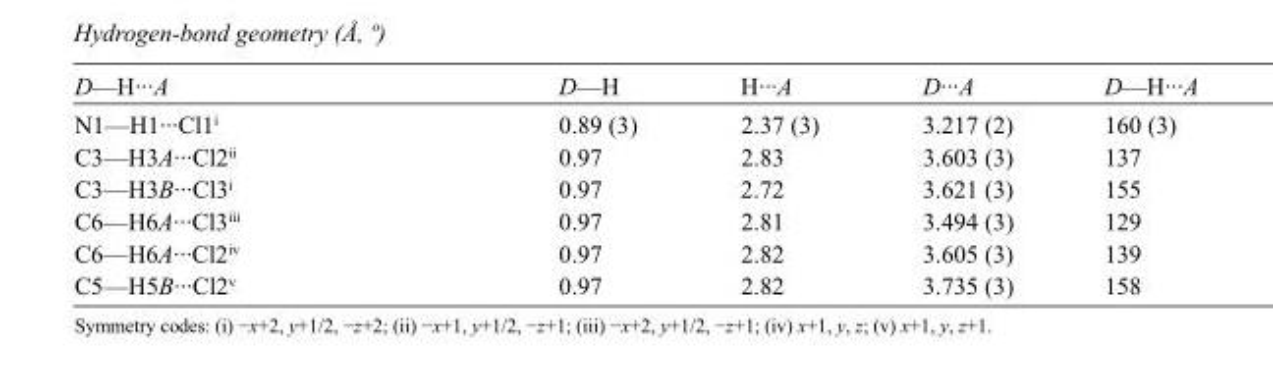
<table><tbody><tr><td>D—H···A</td><td>D—H</td><td>H···A</td><td>D···A</td><td>D—H···A</td></tr><tr><td>N1—H1···Cl1<sup>i</sup></td><td>0.89 (3)</td><td>2.37 (3)</td><td>3.217 (2)</td><td>160 (3)</td></tr><tr><td>C3—H3A···Cl2<sup>ii</sup></td><td>0.97</td><td>2.83</td><td>3.603 (3)</td><td>137</td></tr><tr><td>C3—H3B···Cl3<sup>i</sup></td><td>0.97</td><td>2.72</td><td>3.621 (3)</td><td>155</td></tr><tr><td>C6—H6A···Cl3<sup>iii</sup></td><td>0.97</td><td>2.81</td><td>3.494 (3)</td><td>129</td></tr><tr><td>C6—H6A···Cl2<sup>iv</sup></td><td>0.97</td><td>2.82</td><td>3.605 (3)</td><td>139</td></tr><tr><td>C5—H5B···Cl2<sup>v</sup></td><td>0.97</td><td>2.82</td><td>3.735 (3)</td><td>158</td></tr></tbody></table>